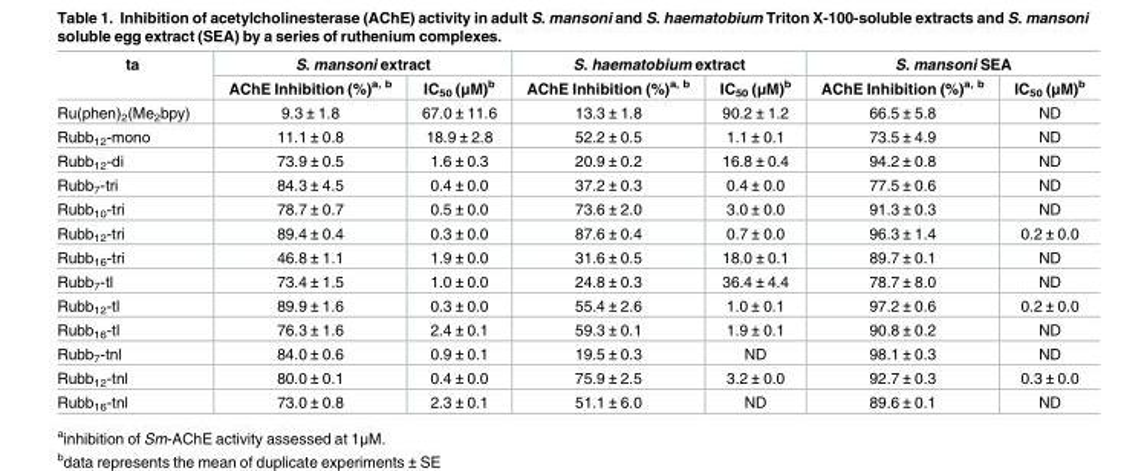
<table><thead><tr><td rowspan="2">ta</td><td colspan="2">S. mansoni extract</td><td colspan="2">S. haematobium extract</td><td colspan="2">S. mansoni SEA</td></tr><tr><td>AChE Inhibition (%)<sup>a, b</sup></td><td>IC<sub>50</sub> (μM)<sup>b</sup></td><td>AChE Inhibition (%)<sup>a, b</sup></td><td>IC<sub>50</sub> (μM)<sup>b</sup></td><td>AChE Inhibition (%)<sup>a, b</sup></td><td>IC<sub>50</sub> (μM)<sup>b</sup></td></tr></thead><tbody><tr><td>Ru(phen)<sub>2</sub>(Me<sub>2</sub>bpy)</td><td>9.3 ± 1.8</td><td>67.0 ± 11.6</td><td>13.3 ± 1.8</td><td>90.2 ± 1.2</td><td>66.5 ± 5.8</td><td>ND</td></tr><tr><td>Rubb<sub>12</sub>-mono</td><td>11.1 ± 0.8</td><td>18.9 ± 2.8</td><td>52.2 ± 0.5</td><td>1.1 ± 0.1</td><td>73.5 ± 4.9</td><td>ND</td></tr><tr><td>Rubb<sub>12</sub>-di</td><td>73.9 ± 0.5</td><td>1.6 ± 0.3</td><td>20.9 ± 0.2</td><td>16.8 ± 0.4</td><td>94.2 ± 0.8</td><td>ND</td></tr><tr><td>Rubb<sub>7</sub>-tri</td><td>84.3 ± 4.5</td><td>0.4 ± 0.0</td><td>37.2 ± 0.3</td><td>0.4 ± 0.0</td><td>77.5 ± 0.6</td><td>ND</td></tr><tr><td>Rubb<sub>10</sub>-tri</td><td>78.7 ± 0.7</td><td>0.5 ± 0.0</td><td>73.6 ± 2.0</td><td>3.0 ± 0.0</td><td>91.3 ± 0.3</td><td>ND</td></tr><tr><td>Rubb<sub>12</sub>-tri</td><td>89.4 ± 0.4</td><td>0.3 ± 0.0</td><td>87.6 ± 0.4</td><td>0.7 ± 0.0</td><td>96.3 ± 1.4</td><td>0.2 ± 0.0</td></tr><tr><td>Rubb<sub>16</sub>-tri</td><td>46.8 ± 1.1</td><td>1.9 ± 0.0</td><td>31.6 ± 0.5</td><td>18.0 ± 0.1</td><td>89.7 ± 0.1</td><td>ND</td></tr><tr><td>Rubb<sub>7</sub>-tl</td><td>73.4 ± 1.5</td><td>1.0 ± 0.0</td><td>24.8 ± 0.3</td><td>36.4 ± 4.4</td><td>78.7 ± 8.0</td><td>ND</td></tr><tr><td>Rubb<sub>12</sub>-tl</td><td>89.9 ± 1.6</td><td>0.3 ± 0.0</td><td>55.4 ± 2.6</td><td>1.0 ± 0.1</td><td>97.2 ± 0.6</td><td>0.2 ± 0.0</td></tr><tr><td>Rubb<sub>16</sub>-tl</td><td>76.3 ± 1.6</td><td>2.4 ± 0.1</td><td>59.3 ± 0.1</td><td>1.9 ± 0.1</td><td>90.8 ± 0.2</td><td>ND</td></tr><tr><td>Rubb<sub>7</sub>-tnl</td><td>84.0 ± 0.6</td><td>0.9 ± 0.1</td><td>19.5 ± 0.3</td><td>ND</td><td>98.1 ± 0.3</td><td>ND</td></tr><tr><td>Rubb<sub>12</sub>-tnl</td><td>80.0 ± 0.1</td><td>0.4 ± 0.0</td><td>75.9 ± 2.5</td><td>3.2 ± 0.0</td><td>92.7 ± 0.3</td><td>0.3 ± 0.0</td></tr><tr><td>Rubb<sub>16</sub>-tnl</td><td>73.0 ± 0.8</td><td>2.3 ± 0.1</td><td>51.1 ± 6.0</td><td>ND</td><td>89.6 ± 0.1</td><td>ND</td></tr></tbody></table>